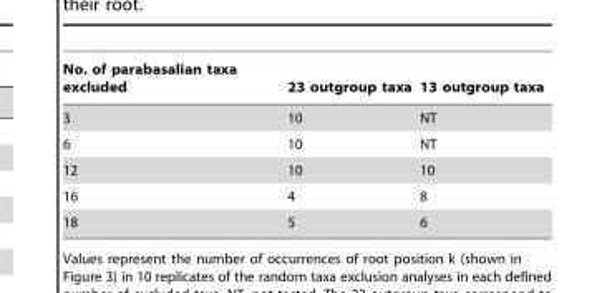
<table><thead><tr><td>No. of parabasalian taxa excluded</td><td>23 outgroup taxa</td><td>13 outgroup taxa</td></tr></thead><tbody><tr><td>3</td><td>10</td><td>NT</td></tr><tr><td>6</td><td>10</td><td>NT</td></tr><tr><td>12</td><td>10</td><td>10</td></tr><tr><td>16</td><td>4</td><td>8</td></tr><tr><td>18</td><td>5</td><td>6</td></tr></tbody></table>